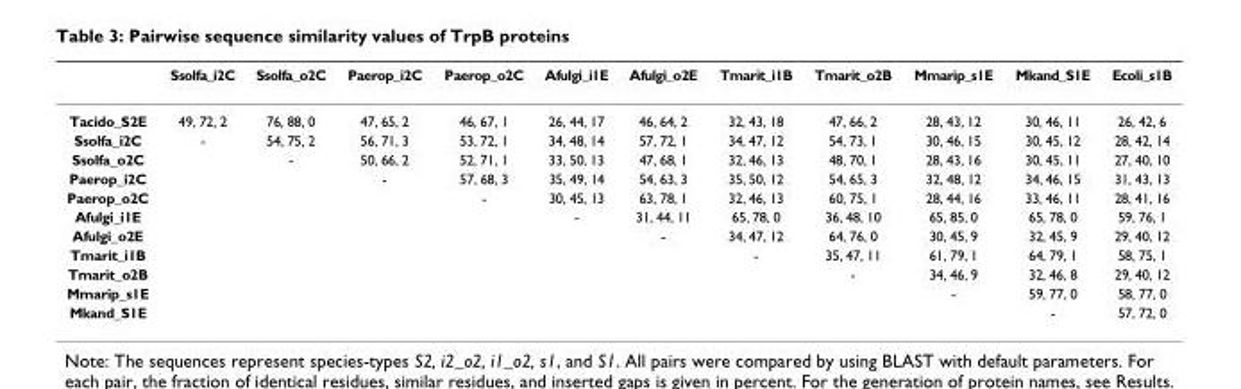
<table><thead><tr><td></td><td>Ssolfa_i2C</td><td>Ssolfa_o2C</td><td>Paerop_i2C</td><td>Paerop_o2C</td><td>Afulgi_i1E</td><td>Afulgi_o2E</td><td>Tmarit_i1B</td><td>Tmarit_o2B</td><td>Mmarip_s1E</td><td>Mkand_S1E</td><td>Ecoli_s1B</td></tr></thead><tbody><tr><td>Tacido_S2E</td><td>49, 72, 2</td><td>76, 88, 0</td><td>47, 65, 2</td><td>46, 67, 1</td><td>26, 44, 17</td><td>46, 64, 2</td><td>32, 43, 18</td><td>47, 66, 2</td><td>28, 43, 12</td><td>30, 46, 11</td><td>26, 42, 6</td></tr><tr><td>Ssolfa_i2C</td><td>-</td><td>54, 75, 2</td><td>56, 71, 3</td><td>53, 72, 1</td><td>34, 48, 14</td><td>57, 72, 1</td><td>34, 47, 12</td><td>54, 73, 1</td><td>30, 46, 15</td><td>30, 45, 12</td><td>28, 42, 14</td></tr><tr><td>Ssolfa_o2C</td><td></td><td>-</td><td>50, 66, 2</td><td>52, 71, 1</td><td>33, 50, 13</td><td>47, 68, 1</td><td>32, 46, 13</td><td>48, 70, 1</td><td>28, 43, 16</td><td>30, 45, 11</td><td>27, 40, 10</td></tr><tr><td>Paerop_i2C</td><td></td><td></td><td>-</td><td>57, 68, 3</td><td>35, 49, 14</td><td>54, 63, 3</td><td>35, 50, 12</td><td>54, 65, 3</td><td>32, 48, 12</td><td>34, 46, 15</td><td>31, 43, 13</td></tr><tr><td>Paerop_o2C</td><td></td><td></td><td></td><td>-</td><td>30, 45, 13</td><td>63, 78, 1</td><td>32, 46, 13</td><td>60, 75, 1</td><td>28, 44, 16</td><td>33, 46, 11</td><td>28, 41, 16</td></tr><tr><td>Afulgi_i1E</td><td></td><td></td><td></td><td></td><td>-</td><td>31, 44, 11</td><td>65, 78, 0</td><td>36, 48, 10</td><td>65, 85, 0</td><td>65, 78, 0</td><td>59, 76, 1</td></tr><tr><td>Afulgi_o2E</td><td></td><td></td><td></td><td></td><td></td><td>-</td><td>34, 47, 12</td><td>64, 76, 0</td><td>30, 45, 9</td><td>32, 45, 9</td><td>29, 40, 12</td></tr><tr><td>Tmarit_i1B</td><td></td><td></td><td></td><td></td><td></td><td></td><td>-</td><td>35, 47, 11</td><td>61, 79, 1</td><td>64, 79, 1</td><td>58, 75, 1</td></tr><tr><td>Tmarit_o2B</td><td></td><td></td><td></td><td></td><td></td><td></td><td></td><td>-</td><td>34, 46, 9</td><td>32, 46, 8</td><td>29, 40, 12</td></tr><tr><td>Mmarip_s1E</td><td></td><td></td><td></td><td></td><td></td><td></td><td></td><td></td><td>-</td><td>59, 77, 0</td><td>58, 77, 0</td></tr><tr><td>Mkand_S1E</td><td></td><td></td><td></td><td></td><td></td><td></td><td></td><td></td><td></td><td>-</td><td>57, 72, 0</td></tr></tbody></table>